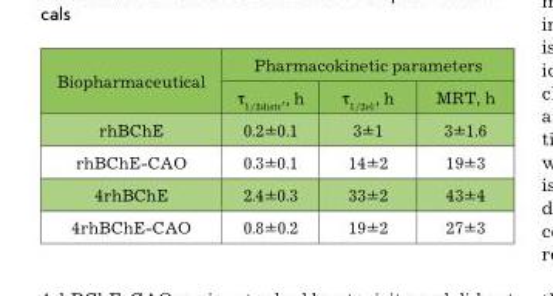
<table><thead><tr><td rowspan="2">Biopharmaceutical</td><td colspan="3">Pharmacokinetic parameters</td></tr><tr><td>τ<sub>1/2distr.</sub>, h</td><td>τ<sub>1/2el.</sub>, h</td><td>MRT, h</td></tr></thead><tbody><tr><td>rhBChE</td><td>0.2±0.1</td><td>3±1</td><td>3±1.6</td></tr><tr><td>rhBChE-CAO</td><td>0.3±0.1</td><td>14±2</td><td>19±3</td></tr><tr><td>4rhBChE</td><td>2.4±0.3</td><td>33±2</td><td>43±4</td></tr><tr><td>4rhBChE-CAO</td><td>0.8±0.2</td><td>19±2</td><td>27±3</td></tr></tbody></table>